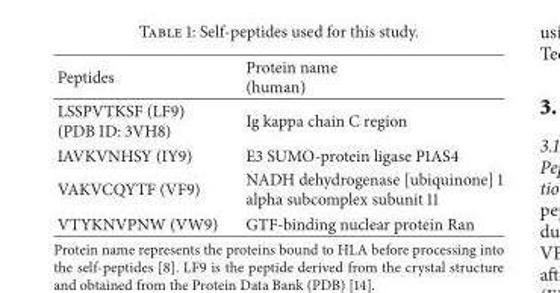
<table><thead><tr><td>Peptides</td><td>Protein name (human)</td></tr></thead><tbody><tr><td>LSSPVTKSF (LF9) (PDB ID: 3VH8)</td><td>Ig kappa chain C region</td></tr><tr><td>IAVKVNHSY (IY9)</td><td>E3 SUMO-protein ligase P1AS4</td></tr><tr><td>VAKVCQYTF (VF9)</td><td>NADH dehydrogenase [ubiquinone] 1 alpha subcomplex subunit 11</td></tr><tr><td>VTYKNVPNW (VW9)</td><td>GTF-binding nuclear protein Ran</td></tr></tbody></table>